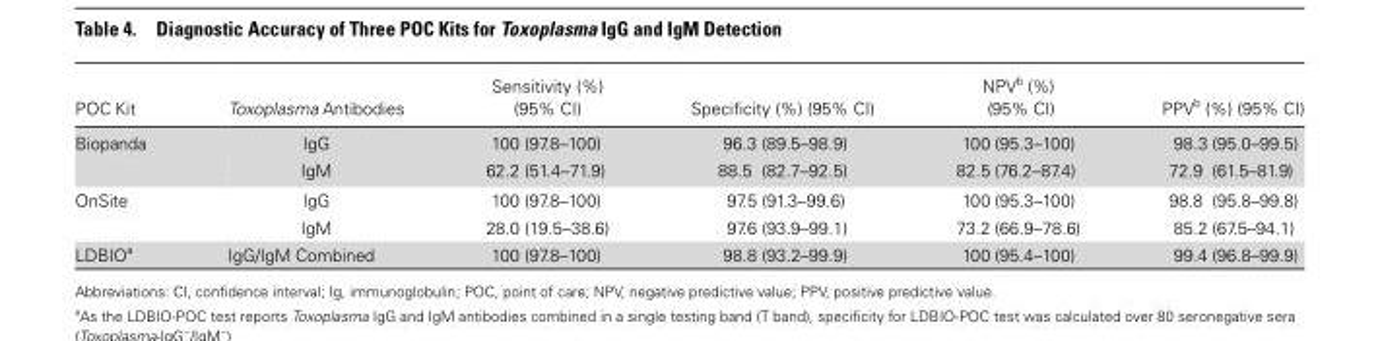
<table><thead><tr><td>POC Kit</td><td>Toxoplasma Antibodies</td><td>Sensitivity (%) (95% CI)</td><td>Specificity (%) (95% CI)</td><td>NPV<sup>b</sup> (%) (95% CI)</td><td>PPV<sup>b</sup> (%) (95% CI)</td></tr></thead><tbody><tr><td rowspan="2">Biopanda</td><td>IgG</td><td>100 (97.8–100)</td><td>96.3 (89.5–98.9)</td><td>100 (95.3–100)</td><td>98.3 (95.0–99.5)</td></tr><tr><td>IgM</td><td>62.2 (51.4–71.9)</td><td>88.5 (82.7–92.5)</td><td>82.5 (76.2–87.4)</td><td>72.9 (61.5–81.9)</td></tr><tr><td rowspan="2">OnSite</td><td>IgG</td><td>100 (97.8–100)</td><td>97.5 (91.3–99.6)</td><td>100 (95.3–100)</td><td>98.8 (95.8–99.8)</td></tr><tr><td>IgM</td><td>28.0 (19.5–38.6)</td><td>97.6 (93.9–99.1)</td><td>73.2 (66.9–78.6)</td><td>85.2 (67.5–94.1)</td></tr><tr><td>LDBIO<sup>a</sup></td><td>IgG/IgM Combined</td><td>100 (97.8–100)</td><td>98.8 (93.2–99.9)</td><td>100 (95.4–100)</td><td>99.4 (96.8–99.9)</td></tr></tbody></table>